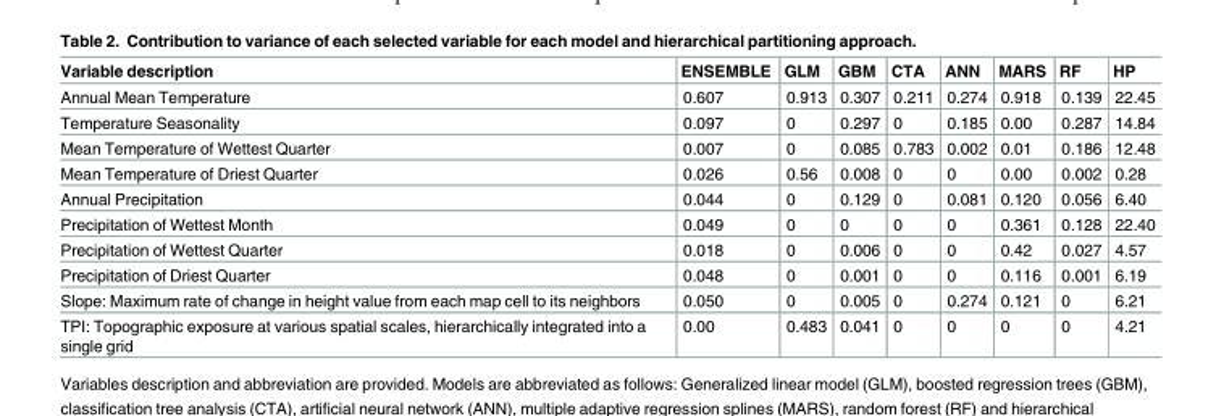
<table><thead><tr><td>Variable description</td><td>ENSEMBLE</td><td>GLM</td><td>GBM</td><td>CTA</td><td>ANN</td><td>MARS</td><td>RF</td><td>HP</td></tr></thead><tbody><tr><td>Annual Mean Temperature</td><td>0.607</td><td>0.913</td><td>0.307</td><td>0.211</td><td>0.274</td><td>0.918</td><td>0.139</td><td>22.45</td></tr><tr><td>Temperature Seasonality</td><td>0.097</td><td>0</td><td>0.297</td><td>0</td><td>0.185</td><td>0.00</td><td>0.287</td><td>14.84</td></tr><tr><td>Mean Temperature of Wettest Quarter</td><td>0.007</td><td>0</td><td>0.085</td><td>0.783</td><td>0.002</td><td>0.01</td><td>0.186</td><td>12.48</td></tr><tr><td>Mean Temperature of Driest Quarter</td><td>0.026</td><td>0.56</td><td>0.008</td><td>0</td><td>0</td><td>0.00</td><td>0.002</td><td>0.28</td></tr><tr><td>Annual Precipitation</td><td>0.044</td><td>0</td><td>0.129</td><td>0</td><td>0.081</td><td>0.120</td><td>0.056</td><td>6.40</td></tr><tr><td>Precipitation of Wettest Month</td><td>0.049</td><td>0</td><td>0</td><td>0</td><td>0</td><td>0.361</td><td>0.128</td><td>22.40</td></tr><tr><td>Precipitation of Wettest Quarter</td><td>0.018</td><td>0</td><td>0.006</td><td>0</td><td>0</td><td>0.42</td><td>0.027</td><td>4.57</td></tr><tr><td>Precipitation of Driest Quarter</td><td>0.048</td><td>0</td><td>0.001</td><td>0</td><td>0</td><td>0.116</td><td>0.001</td><td>6.19</td></tr><tr><td>Slope: Maximum rate of change in height value from each map cell to its neighbors</td><td>0.050</td><td>0</td><td>0.005</td><td>0</td><td>0.274</td><td>0.121</td><td>0</td><td>6.21</td></tr><tr><td>TPI: Topographic exposure at various spatial scales, hierarchically integrated into a single grid</td><td>0.00</td><td>0.483</td><td>0.041</td><td>0</td><td>0</td><td>0</td><td>0</td><td>4.21</td></tr></tbody></table>